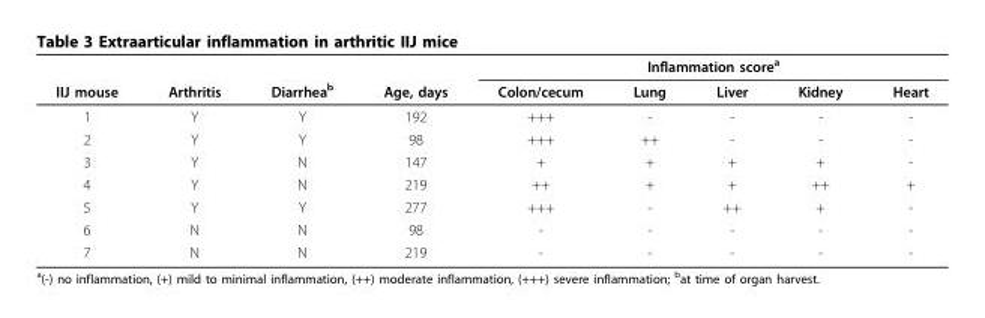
<table><thead><tr><td rowspan="2">IIJ mouse</td><td rowspan="2">Arthritis</td><td rowspan="2">Diarrhea<sup>b</sup></td><td rowspan="2">Age, days</td><td colspan="5">Inflammation score<sup>a</sup></td></tr><tr><td>Colon/cecum</td><td>Lung</td><td>Liver</td><td>Kidney</td><td>Heart</td></tr></thead><tbody><tr><td>1</td><td>Y</td><td>Y</td><td>192</td><td>+++</td><td>-</td><td>-</td><td>-</td><td>-</td></tr><tr><td>2</td><td>Y</td><td>Y</td><td>98</td><td>+++</td><td>++</td><td>-</td><td>-</td><td>-</td></tr><tr><td>3</td><td>Y</td><td>N</td><td>147</td><td>+</td><td>+</td><td>+</td><td>+</td><td>-</td></tr><tr><td>4</td><td>Y</td><td>N</td><td>219</td><td>++</td><td>+</td><td>+</td><td>++</td><td>+</td></tr><tr><td>5</td><td>Y</td><td>Y</td><td>277</td><td>+++</td><td>-</td><td>++</td><td>+</td><td>-</td></tr><tr><td>6</td><td>N</td><td>N</td><td>98</td><td>-</td><td>-</td><td>-</td><td>-</td><td>-</td></tr><tr><td>7</td><td>N</td><td>N</td><td>219</td><td>-</td><td>-</td><td>-</td><td>-</td><td>-</td></tr></tbody></table>